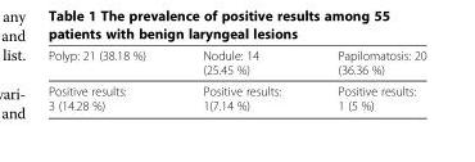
<table><thead><tr><td>Polyp: 21 (38.18 %)</td><td>Nodule: 14 (25.45 %)</td><td>Papilomatosis: 20 (36.36 %)</td></tr></thead><tbody><tr><td>Positive results: 3 (14.28 %)</td><td>Positive results: 1(7.14 %)</td><td>Positive results: 1 (5 %)</td></tr></tbody></table>